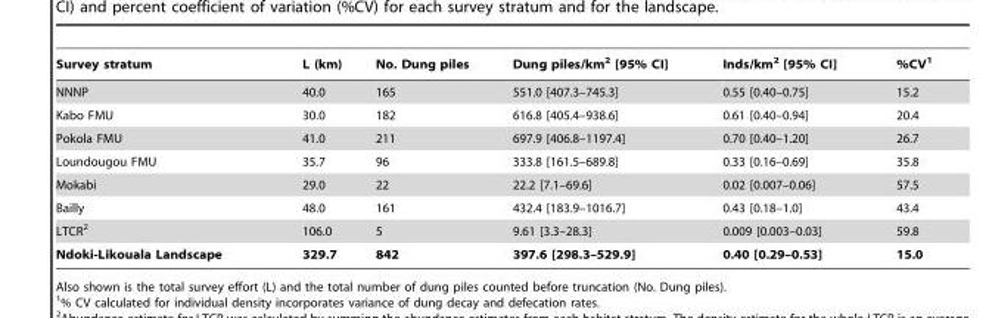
<table><thead><tr><td>Survey stratum</td><td>L (km)</td><td>No. Dung piles</td><td>Dung piles/km<sup>2</sup> [95% CI]</td><td>Inds/km<sup>2</sup> [95% CI]</td><td>%CV<sup>1</sup></td></tr></thead><tbody><tr><td>NNNP</td><td>40.0</td><td>165</td><td>551.0 [407.3–745.3]</td><td>0.55 [0.40–0.75]</td><td>15.2</td></tr><tr><td>Kabo FMU</td><td>30.0</td><td>182</td><td>616.8 [405.4–938.6]</td><td>0.61 [0.40–0.94]</td><td>20.4</td></tr><tr><td>Pokola FMU</td><td>41.0</td><td>211</td><td>697.9 [406.8–1197.4]</td><td>0.70 [0.40–1.20]</td><td>26.7</td></tr><tr><td>Loundougou FMU</td><td>35.7</td><td>96</td><td>333.8 [161.5–689.8]</td><td>0.33 [0.16–0.69]</td><td>35.8</td></tr><tr><td>Mokabi</td><td>29.0</td><td>22</td><td>22.2 [7.1–69.6]</td><td>0.02 [0.007–0.06]</td><td>57.5</td></tr><tr><td>Bailly</td><td>48.0</td><td>161</td><td>432.4 [183.9–1016.7]</td><td>0.43 [0.18–1.0]</td><td>43.4</td></tr><tr><td>LTCR<sup>2</sup></td><td>106.0</td><td>5</td><td>9.61 [3.3–28.3]</td><td>0.009 [0.003–0.03]</td><td>59.8</td></tr><tr><td>Ndoki-Likouala Landscape</td><td>329.7</td><td>842</td><td>397.6 [298.3–529.9]</td><td>0.40 [0.29–0.53]</td><td>15.0</td></tr></tbody></table>